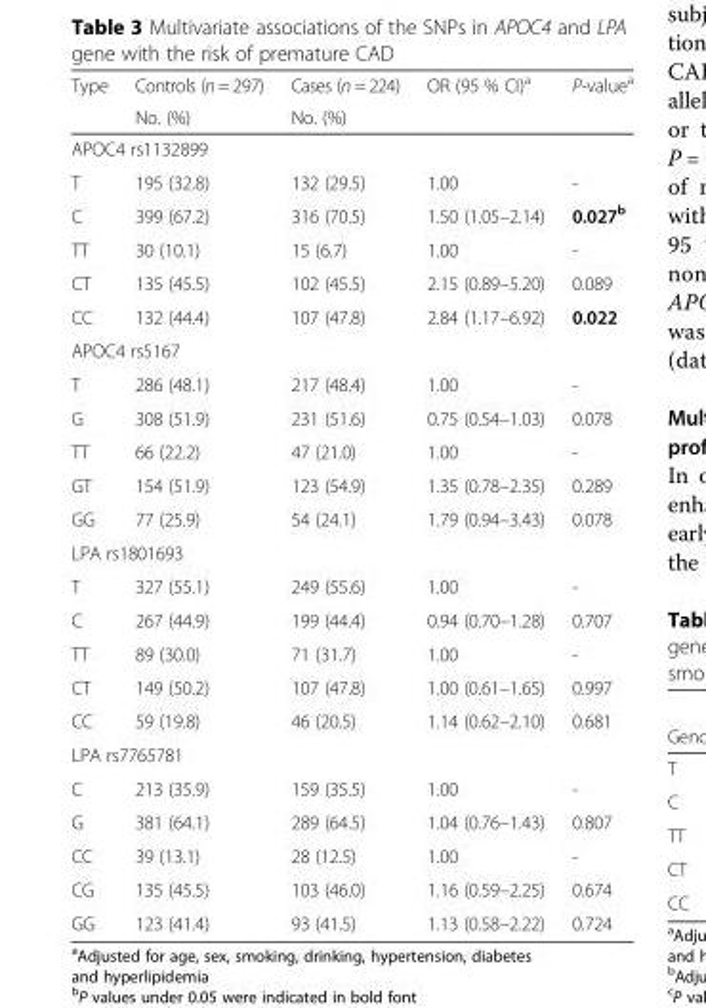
<table><thead><tr><td rowspan="2">Type</td><td rowspan="2">Controls (n = 297) No. (%)</td><td rowspan="2">Cases (n = 224) No. (%)</td><td rowspan="2">OR (95 % CI)<sup>a</sup></td><td rowspan="2">P-value<sup>a</sup></td></tr><tr></tr></thead><tbody><tr><td colspan="5">APOC4 rs1132899</td></tr><tr><td>T</td><td>195 (32.8)</td><td>132 (29.5)</td><td>1.00</td><td>-</td></tr><tr><td>C</td><td>399 (67.2)</td><td>316 (70.5)</td><td>1.50 (1.05–2.14)</td><td>0.027<sup>b</sup></td></tr><tr><td>TT</td><td>30 (10.1)</td><td>15 (6.7)</td><td>1.00</td><td>-</td></tr><tr><td>CT</td><td>135 (45.5)</td><td>102 (45.5)</td><td>2.15 (0.89–5.20)</td><td>0.089</td></tr><tr><td>CC</td><td>132 (44.4)</td><td>107 (47.8)</td><td>2.84 (1.17–6.92)</td><td>0.022</td></tr><tr><td colspan="5">APOC4 rs5167</td></tr><tr><td>T</td><td>286 (48.1)</td><td>217 (48.4)</td><td>1.00</td><td>-</td></tr><tr><td>G</td><td>308 (51.9)</td><td>231 (51.6)</td><td>0.75 (0.54–1.03)</td><td>0.078</td></tr><tr><td>TT</td><td>66 (22.2)</td><td>47 (21.0)</td><td>1.00</td><td>-</td></tr><tr><td>GT</td><td>154 (51.9)</td><td>123 (54.9)</td><td>1.35 (0.78–2.35)</td><td>0.289</td></tr><tr><td>GG</td><td>77 (25.9)</td><td>54 (24.1)</td><td>1.79 (0.94–3.43)</td><td>0.078</td></tr><tr><td colspan="5">LPA rs1801693</td></tr><tr><td>T</td><td>327 (55.1)</td><td>249 (55.6)</td><td>1.00</td><td>-</td></tr><tr><td>C</td><td>267 (44.9)</td><td>199 (44.4)</td><td>0.94 (0.70–1.28)</td><td>0.707</td></tr><tr><td>TT</td><td>89 (30.0)</td><td>71 (31.7)</td><td>1.00</td><td>-</td></tr><tr><td>CT</td><td>149 (50.2)</td><td>107 (47.8)</td><td>1.00 (0.61–1.65)</td><td>0.997</td></tr><tr><td>CC</td><td>59 (19.8)</td><td>46 (20.5)</td><td>1.14 (0.62–2.10)</td><td>0.681</td></tr><tr><td colspan="5">LPA rs7765781</td></tr><tr><td>C</td><td>213 (35.9)</td><td>159 (35.5)</td><td>1.00</td><td>-</td></tr><tr><td>G</td><td>381 (64.1)</td><td>289 (64.5)</td><td>1.04 (0.76–1.43)</td><td>0.807</td></tr><tr><td>CC</td><td>39 (13.1)</td><td>28 (12.5)</td><td>1.00</td><td>-</td></tr><tr><td>CG</td><td>135 (45.5)</td><td>103 (46.0)</td><td>1.16 (0.59–2.25)</td><td>0.674</td></tr><tr><td>GG</td><td>123 (41.4)</td><td>93 (41.5)</td><td>1.13 (0.58–2.22)</td><td>0.724</td></tr></tbody></table>